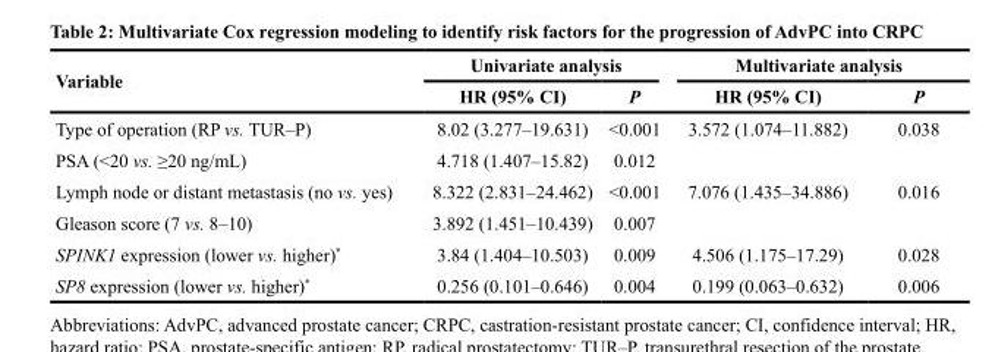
<table><thead><tr><td rowspan="2">Variable</td><td colspan="2">Univariate analysis</td><td colspan="2">Multivariate analysis</td></tr><tr><td>HR (95% CI)</td><td>P</td><td>HR (95% CI)</td><td>P</td></tr></thead><tbody><tr><td>Type of operation (RP vs. TUR–P)</td><td>8.02 (3.277–19.631)</td><td>&lt;0.001</td><td>3.572 (1.074–11.882)</td><td>0.038</td></tr><tr><td>PSA (&lt;20 vs. ≥20 ng/mL)</td><td>4.718 (1.407–15.82)</td><td>0.012</td><td></td><td></td></tr><tr><td>Lymph node or distant metastasis (no vs. yes)</td><td>8.322 (2.831–24.462)</td><td>&lt;0.001</td><td>7.076 (1.435–34.886)</td><td>0.016</td></tr><tr><td>Gleason score (7 vs. 8–10)</td><td>3.892 (1.451–10.439)</td><td>0.007</td><td></td><td></td></tr><tr><td>SPINK1 expression (lower vs. higher)*</td><td>3.84 (1.404–10.503)</td><td>0.009</td><td>4.506 (1.175–17.29)</td><td>0.028</td></tr><tr><td>SP8 expression (lower vs. higher)*</td><td>0.256 (0.101–0.646)</td><td>0.004</td><td>0.199 (0.063–0.632)</td><td>0.006</td></tr></tbody></table>